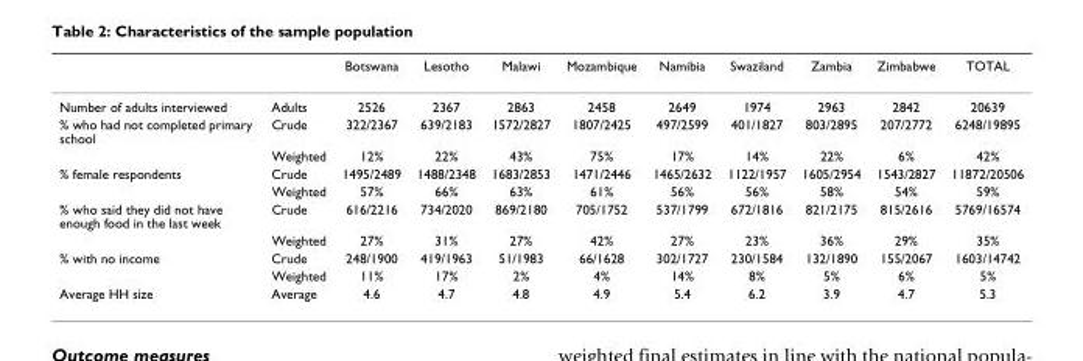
<table><thead><tr><td></td><td></td><td>Botswana</td><td>Lesotho</td><td>Malawi</td><td>Mozambique</td><td>Namibia</td><td>Swaziland</td><td>Zambia</td><td>Zimbabwe</td><td>TOTAL</td></tr></thead><tbody><tr><td>Number of adults interviewed</td><td>Adults</td><td>2526</td><td>2367</td><td>2863</td><td>2458</td><td>2649</td><td>1974</td><td>2963</td><td>2842</td><td>20639</td></tr><tr><td rowspan="2">% who had not completed primary school</td><td>Crude</td><td>322/2367</td><td>639/2183</td><td>1572/2827</td><td>1807/2425</td><td>497/2599</td><td>401/1827</td><td>803/2895</td><td>207/2772</td><td>6248/19895</td></tr><tr><td>Weighted</td><td>12%</td><td>22%</td><td>43%</td><td>75%</td><td>17%</td><td>14%</td><td>22%</td><td>6%</td><td>42%</td></tr><tr><td rowspan="2">% female respondents</td><td>Crude</td><td>1495/2489</td><td>1488/2348</td><td>1683/2853</td><td>1471/2446</td><td>1465/2632</td><td>1122/1957</td><td>1605/2954</td><td>1543/2827</td><td>11872/20506</td></tr><tr><td>Weighted</td><td>57%</td><td>66%</td><td>63%</td><td>61%</td><td>56%</td><td>56%</td><td>58%</td><td>54%</td><td>59%</td></tr><tr><td rowspan="2">% who said they did not have enough food in the last week</td><td>Crude</td><td>616/2216</td><td>734/2020</td><td>869/2180</td><td>705/1752</td><td>537/1799</td><td>672/1816</td><td>821/2175</td><td>815/2616</td><td>5769/16574</td></tr><tr><td>Weighted</td><td>27%</td><td>31%</td><td>27%</td><td>42%</td><td>27%</td><td>23%</td><td>36%</td><td>29%</td><td>35%</td></tr><tr><td rowspan="2">% with no income</td><td>Crude</td><td>248/1900</td><td>419/1963</td><td>51/1983</td><td>66/1628</td><td>302/1727</td><td>230/1584</td><td>132/1890</td><td>155/2067</td><td>1603/14742</td></tr><tr><td>Weighted</td><td>11%</td><td>17%</td><td>2%</td><td>4%</td><td>14%</td><td>8%</td><td>5%</td><td>6%</td><td>5%</td></tr><tr><td>Average HH size</td><td>Average</td><td>4.6</td><td>4.7</td><td>4.8</td><td>4.9</td><td>5.4</td><td>6.2</td><td>3.9</td><td>4.7</td><td>5.3</td></tr></tbody></table>